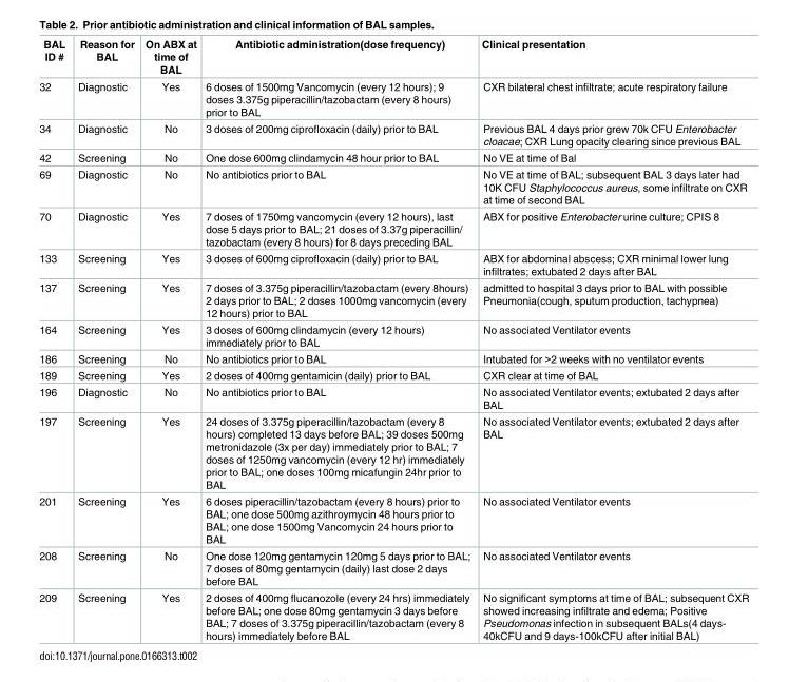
<table><thead><tr><td>BAL ID #</td><td>Reason for BAL</td><td>On ABX at time of BAL</td><td>Antibiotic administration(dose frequency)</td><td>Clinical presentation</td></tr></thead><tbody><tr><td>32</td><td>Diagnostic</td><td>Yes</td><td>6 doses of 1500mg Vancomycin (every 12 hours); 9 doses 3.375g piperacillin/tazobactam (every 8 hours) prior to BAL</td><td>CXR bilateral chest infiltrate; acute respiratory failure</td></tr><tr><td>34</td><td>Diagnostic</td><td>No</td><td>3 doses of 200mg ciprofloxacin (daily) prior to BAL</td><td>Previous BAL 4 days prior grew 70k CFU Enterobacter cloacae; CXR Lung opacity clearing since previous BAL</td></tr><tr><td>42</td><td>Screening</td><td>No</td><td>One dose 600mg clindamycin 48 hour prior to BAL</td><td>No VE at time of Bal</td></tr><tr><td>69</td><td>Diagnostic</td><td>No</td><td>No antibiotics prior to BAL</td><td>No VE at time of BAL; subsequent BAL 3 days later had 10K CFU Staphylococcus aureus, some infiltrate on CXR at time of second BAL</td></tr><tr><td>70</td><td>Diagnostic</td><td>Yes</td><td>7 doses of 1750mg vancomycin (every 12 hours), last dose 5 days prior to BAL; 21 doses of 3.37g piperacillin/ tazobactam (every 8 hours) for 8 days preceding BAL</td><td>ABX for positive Enterobacter urine culture; CPIS 8</td></tr><tr><td>133</td><td>Screening</td><td>Yes</td><td>3 doses of 600mg ciprofloxacin (daily) prior to BAL</td><td>ABX for abdominal abscess; CXR minimal lower lung infiltrates; extubated 2 days after BAL</td></tr><tr><td>137</td><td>Screening</td><td>Yes</td><td>7 doses of 3.375g piperacillin/tazobactam (every 8hours) 2 days prior to BAL; 2 doses 1000mg vancomycin (every 12 hours) prior to BAL</td><td>admitted to hospital 3 days prior to BAL with possible Pneumonia(cough, sputum production, tachypnea)</td></tr><tr><td>164</td><td>Screening</td><td>Yes</td><td>3 doses of 600mg clindamycin (every 12 hours) immediately prior to BAL</td><td>No associated Ventilator events</td></tr><tr><td>186</td><td>Screening</td><td>No</td><td>No antibiotics prior to BAL</td><td>Intubated for &gt;2 weeks with no ventilator events</td></tr><tr><td>189</td><td>Screening</td><td>Yes</td><td>2 doses of 400mg gentamicin (daily) prior to BAL</td><td>CXR clear at time of BAL</td></tr><tr><td>196</td><td>Diagnostic</td><td>No</td><td>No antibiotics prior to BAL</td><td>No associated Ventilator events; extubated 2 days after BAL</td></tr><tr><td>197</td><td>Screening</td><td>Yes</td><td>24 doses of 3.375g piperacillin/tazobactam (every 8 hours) completed 13 days before BAL; 39 doses 500mg metronidazole (3x per day) immediately prior to BAL; 7 doses of 1250mg vancomycin (every 12 hr) immediately prior to BAL; one doses 100mg micafungin 24hr prior to BAL</td><td>No associated Ventilator events; extubated 2 days after BAL</td></tr><tr><td>201</td><td>Screening</td><td>Yes</td><td>6 doses piperacillin/tazobactam (every 8 hours) prior to BAL; one dose 500mg azithroymycin 48 hours prior to BAL; one dose 1500mg Vancomycin 24 hours prior to BAL</td><td>No associated Ventilator events</td></tr><tr><td>208</td><td>Screening</td><td>No</td><td>One dose 120mg gentamycin 120mg 5 days prior to BAL; 7 doses of 80mg gentamycin (daily) last dose 2 days before BAL</td><td>No associated Ventilator events</td></tr><tr><td>209</td><td>Screening</td><td>Yes</td><td>2 doses of 400mg flucanozole (every 24 hrs) immediately before BAL; one dose 80mg gentamycin 3 days before BAL; 7 doses of 3.375g piperacillin/tazobactam (every 8 hours) immediately before BAL</td><td>No significant symptoms at time of BAL; subsequent CXR showed increasing infiltrate and edema; Positive Pseudomonas infection in subsequent BALs(4 days- 40kCFU and 9 days-100kCFU after initial BAL)</td></tr></tbody></table>